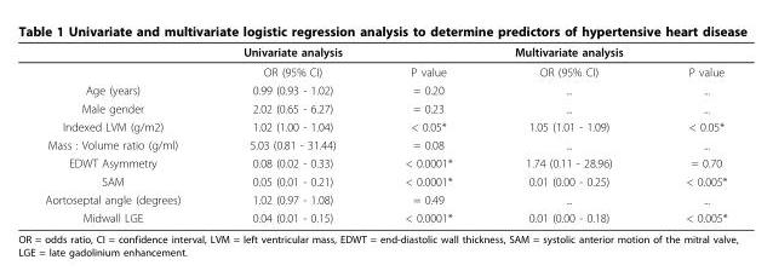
<table><thead><tr><td></td><td>Univariate analysis</td><td></td><td>Multivariate analysis</td><td></td></tr></thead><tbody><tr><td></td><td>OR (95% CI)</td><td>P value</td><td>OR (95% CI)</td><td>P value</td></tr><tr><td>Age (years)</td><td>0.99 (0.93 - 1.02)</td><td>= 0.20</td><td>...</td><td>...</td></tr><tr><td>Male gender</td><td>2.02 (0.65 - 6.27)</td><td>= 0.23</td><td>...</td><td>...</td></tr><tr><td>Indexed LVM (g/m2)</td><td>1.02 (1.00 - 1.04)</td><td>&lt; 0.05*</td><td>1.05 (1.01 - 1.09)</td><td>&lt; 0.05*</td></tr><tr><td>Mass : Volume ratio (g/ml)</td><td>5.03 (0.81 - 31.44)</td><td>= 0.08</td><td>...</td><td>...</td></tr><tr><td>EDWT Asymmetry</td><td>0.08 (0.02 - 0.33)</td><td>&lt; 0.0001*</td><td>1.74 (0.11 - 28.96)</td><td>= 0.70</td></tr><tr><td>SAM</td><td>0.05 (0.01 - 0.21)</td><td>&lt; 0.0001*</td><td>0.01 (0.00 - 0.25)</td><td>&lt; 0.005*</td></tr><tr><td>Aortoseptal angle (degrees)</td><td>1.02 (0.97 - 1.08)</td><td>= 0.49</td><td>...</td><td>...</td></tr><tr><td>Midwall LGE</td><td>0.04 (0.01 - 0.15)</td><td>&lt; 0.0001*</td><td>0.01 (0.00 - 0.18)</td><td>&lt; 0.005*</td></tr></tbody></table>